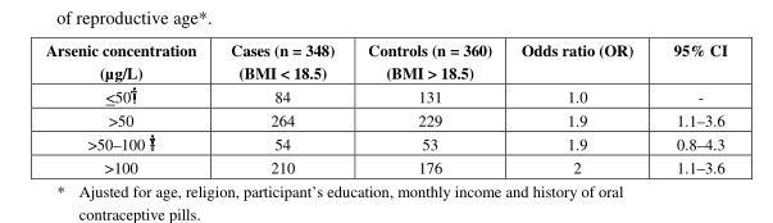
<table><thead><tr><td>Arsenic concentration (µg/L)</td><td>Cases (n = 348) (BMI &lt; 18.5)</td><td>Controls (n = 360) (BMI &gt; 18.5)</td><td>Odds ratio (OR)</td><td>95% CI</td></tr></thead><tbody><tr><td>&lt;50</td><td>84</td><td>131</td><td>1.0</td><td>-</td></tr><tr><td>&gt;50</td><td>264</td><td>229</td><td>1.9</td><td>1.1–3.6</td></tr><tr><td>&gt;50–100</td><td>54</td><td>53</td><td>1.9</td><td>0.8–4.3</td></tr><tr><td>&gt;100</td><td>210</td><td>176</td><td>2</td><td>1.1–3.6</td></tr></tbody></table>